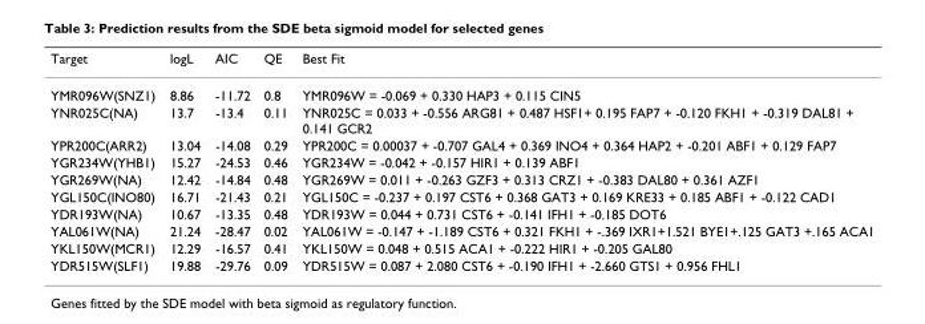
<table><thead><tr><td>Target</td><td>logL</td><td>AIC</td><td>QE</td><td>Best Fit</td></tr></thead><tbody><tr><td>YMR096W(SNZ1)</td><td>8.86</td><td>-11.72</td><td>0.8</td><td>YMR096W = -0.069 + 0.330 HAP3 + 0.115 CIN5</td></tr><tr><td>YNR025C(NA)</td><td>13.7</td><td>-13.4</td><td>0.11</td><td>YNR025C = 0.033 + -0.556 ARG81 + 0.487 HSF1+ 0.195 FAP7 + -0.120 FKH1 + -0.319 DAL81 + 0.141 GCR2</td></tr><tr><td>YPR200C(ARR2)</td><td>13.04</td><td>-14.08</td><td>0.29</td><td>YPR200C = 0.00037 + -0.707 GAL4 + 0.369 INO4 + 0.364 HAP2 + -0.201 ABF1 + 0.129 FAP7</td></tr><tr><td>YGR234W(YHB1)</td><td>15.27</td><td>-24.53</td><td>0.46</td><td>YGR234W = -0.042 + -0.157 HIR1 + 0.139 ABF1</td></tr><tr><td>YGR269W(NA)</td><td>12.42</td><td>-14.84</td><td>0.48</td><td>YGR269W = 0.011 + -0.263 GZF3 + 0.313 CRZ1 + -0.383 DAL80 + 0.361 AZF1</td></tr><tr><td>YGL150C(INO80)</td><td>16.71</td><td>-21.43</td><td>0.21</td><td>YGL150C = -0.237 + 0.197 CST6 + 0.368 GAT3 + 0.169 KRE33 + 0.185 ABF1 + -0.122 CAD1</td></tr><tr><td>YDR193W(NA)</td><td>10.67</td><td>-13.35</td><td>0.48</td><td>YDR193W = 0.044 + 0.731 CST6 + -0.141 IFH1 + -0.185 DOT6</td></tr><tr><td>YAL061W(NA)</td><td>21.24</td><td>-28.47</td><td>0.02</td><td>YAL061W = -0.147 + -1.189 CST6 + 0.321 FKH1 + -.369 IXR1+1.521 BYE1+.125 GAT3 +.165 ACA1</td></tr><tr><td>YKL150W(MCR1)</td><td>12.29</td><td>-16.57</td><td>0.41</td><td>YKL150W = 0.048 + 0.515 ACA1 + -0.222 HIR1 + -0.205 GAL80</td></tr><tr><td>YDR515W(SLF1)</td><td>19.88</td><td>-29.76</td><td>0.09</td><td>YDR515W = 0.087 + 2.080 CST6 + -0.190 IFH1 + -2.660 GTS1 + 0.956 FHL1</td></tr></tbody></table>